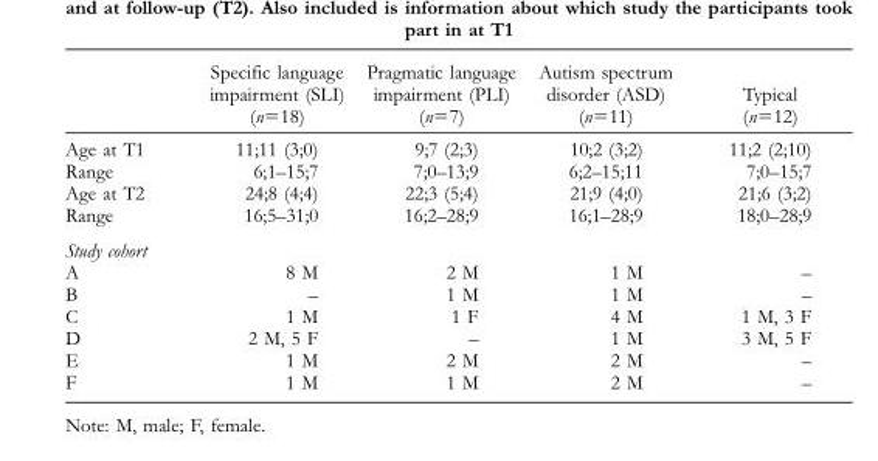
<table><thead><tr><td></td><td>Specific language impairment (SLI) (n=18)</td><td>Pragmatic language impairment (PLI) (n=7)</td><td>Autism spectrum disorder (ASD) (n=11)</td><td>Typical (n=12)</td></tr></thead><tbody><tr><td>Age at T1</td><td>11;11 (3;0)</td><td>9;7 (2;3)</td><td>10;2 (3;2)</td><td>11;2 (2;10)</td></tr><tr><td>Range</td><td>6;1–15;7</td><td>7;0–13;9</td><td>6;2–15;11</td><td>7;0–15;7</td></tr><tr><td>Age at T2</td><td>24;8 (4;4)</td><td>22;3 (5;4)</td><td>21;9 (4;0)</td><td>21;6 (3;2)</td></tr><tr><td>Range</td><td>16;5–31;0</td><td>16;2–28;9</td><td>16;1–28;9</td><td>18;0–28;9</td></tr><tr><td colspan="5">Study cohort</td></tr><tr><td>A</td><td>8 M</td><td>2 M</td><td>1 M</td><td>–</td></tr><tr><td>B</td><td>–</td><td>1 M</td><td>1 M</td><td>–</td></tr><tr><td>C</td><td>1 M</td><td>1 F</td><td>4 M</td><td>1 M, 3 F</td></tr><tr><td>D</td><td>2 M, 5 F</td><td>–</td><td>1 M</td><td>3 M, 5 F</td></tr><tr><td>E</td><td>1 M</td><td>2 M</td><td>2 M</td><td>–</td></tr><tr><td>F</td><td>1 M</td><td>1 M</td><td>2 M</td><td>–</td></tr></tbody></table>